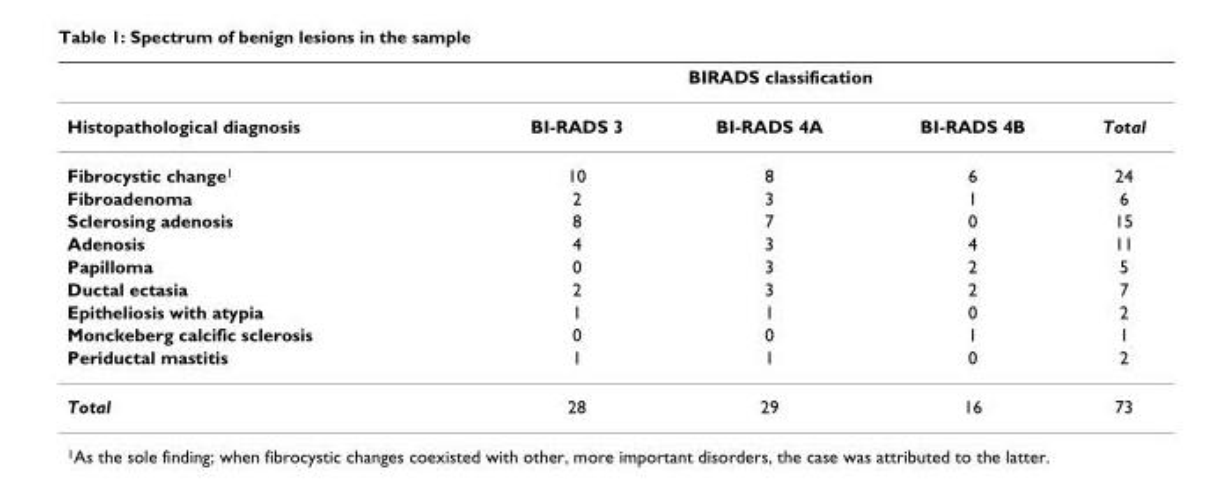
<table><thead><tr><td rowspan="2">Histopathological diagnosis</td><td colspan="3">BIRADS classification</td><td rowspan="2">Total</td></tr><tr><td>BI-RADS 3</td><td>BI-RADS 4A</td><td>BI-RADS 4B</td></tr></thead><tbody><tr><td>Fibrocystic change<sup>1</sup></td><td>10</td><td>8</td><td>6</td><td>24</td></tr><tr><td>Fibroadenoma</td><td>2</td><td>3</td><td>1</td><td>6</td></tr><tr><td>Sclerosing adenosis</td><td>8</td><td>7</td><td>0</td><td>15</td></tr><tr><td>Adenosis</td><td>4</td><td>3</td><td>4</td><td>11</td></tr><tr><td>Papilloma</td><td>0</td><td>3</td><td>2</td><td>5</td></tr><tr><td>Ductal ectasia</td><td>2</td><td>3</td><td>2</td><td>7</td></tr><tr><td>Epitheliosis with atypia</td><td>1</td><td>1</td><td>0</td><td>2</td></tr><tr><td>Monckeberg calcific sclerosis</td><td>0</td><td>0</td><td>1</td><td>1</td></tr><tr><td>Periductal mastitis</td><td>1</td><td>1</td><td>0</td><td>2</td></tr><tr><td>Total</td><td>28</td><td>29</td><td>16</td><td>73</td></tr></tbody></table>